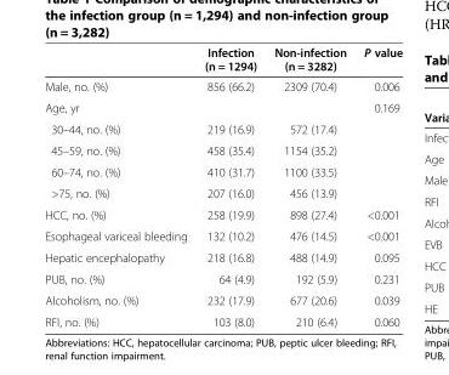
<table><thead><tr><td></td><td>Infection (n = 1294)</td><td>Non-infection (n = 3282)</td><td>P value</td></tr></thead><tbody><tr><td>Male, no. (%)</td><td>856 (66.2)</td><td>2309 (70.4)</td><td>0.006</td></tr><tr><td>Age, yr</td><td></td><td></td><td>0.169</td></tr><tr><td>30–44, no. (%)</td><td>219 (16.9)</td><td>572 (17.4)</td><td></td></tr><tr><td>45–59, no. (%)</td><td>458 (35.4)</td><td>1154 (35.2)</td><td></td></tr><tr><td>60–74, no. (%)</td><td>410 (31.7)</td><td>1100 (33.5)</td><td></td></tr><tr><td>&gt;75, no. (%)</td><td>207 (16.0)</td><td>456 (13.9)</td><td></td></tr><tr><td>HCC, no. (%)</td><td>258 (19.9)</td><td>898 (27.4)</td><td>&lt;0.001</td></tr><tr><td>Esophageal variceal bleeding</td><td>132 (10.2)</td><td>476 (14.5)</td><td>&lt;0.001</td></tr><tr><td>Hepatic encephalopathy</td><td>218 (16.8)</td><td>488 (14.9)</td><td>0.095</td></tr><tr><td>PUB, no. (%)</td><td>64 (4.9)</td><td>192 (5.9)</td><td>0.231</td></tr><tr><td>Alcoholism, no. (%)</td><td>232 (17.9)</td><td>677 (20.6)</td><td>0.039</td></tr><tr><td>RFI, no. (%)</td><td>103 (8.0)</td><td>210 (6.4)</td><td>0.060</td></tr></tbody></table>